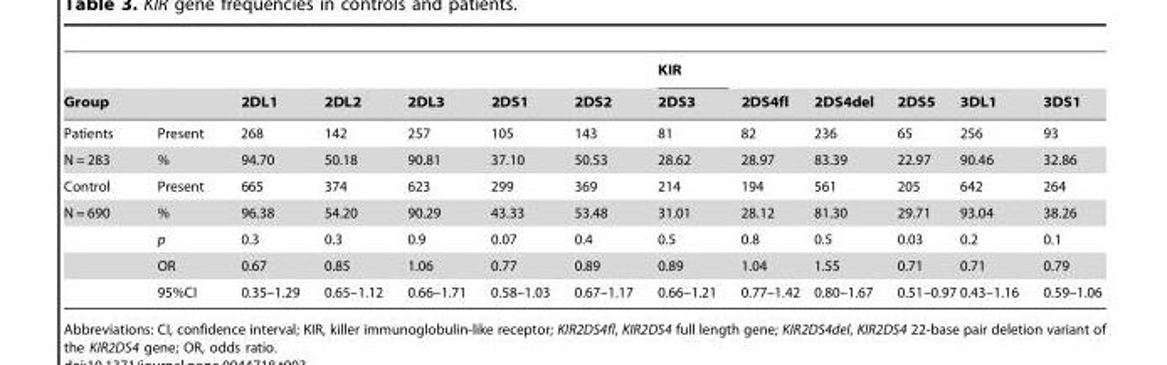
<table><thead><tr><td rowspan="2">Group</td><td rowspan="2"></td><td rowspan="2">2DL1</td><td rowspan="2">2DL2</td><td rowspan="2">2DL3</td><td rowspan="2">2DS1</td><td rowspan="2">2DS2</td><td rowspan="2">KIR 2DS3</td><td rowspan="2">2DS4fl</td><td rowspan="2">2DS4del</td><td rowspan="2">2DS5</td><td rowspan="2">3DL1</td><td rowspan="2">3DS1</td></tr><tr></tr></thead><tbody><tr><td>Patients</td><td>Present</td><td>268</td><td>142</td><td>257</td><td>105</td><td>143</td><td>81</td><td>82</td><td>236</td><td>65</td><td>256</td><td>93</td></tr><tr><td>N = 283</td><td>%</td><td>94.70</td><td>50.18</td><td>90.81</td><td>37.10</td><td>50.53</td><td>28.62</td><td>28.97</td><td>83.39</td><td>22.97</td><td>90.46</td><td>32.86</td></tr><tr><td>Control</td><td>Present</td><td>665</td><td>374</td><td>623</td><td>299</td><td>369</td><td>214</td><td>194</td><td>561</td><td>205</td><td>642</td><td>264</td></tr><tr><td rowspan="4">N = 690</td><td>%</td><td>96.38</td><td>54.20</td><td>90.29</td><td>43.33</td><td>53.48</td><td>31.01</td><td>28.12</td><td>81.30</td><td>29.71</td><td>93.04</td><td>38.26</td></tr><tr><td>p</td><td>0.3</td><td>0.3</td><td>0.9</td><td>0.07</td><td>0.4</td><td>0.5</td><td>0.8</td><td>0.5</td><td>0.03</td><td>0.2</td><td>0.1</td></tr><tr><td>OR</td><td>0.67</td><td>0.85</td><td>1.06</td><td>0.77</td><td>0.89</td><td>0.89</td><td>1.04</td><td>1.55</td><td>0.71</td><td>0.71</td><td>0.79</td></tr><tr><td>95%CI</td><td>0.35–1.29</td><td>0.65–1.12</td><td>0.66–1.71</td><td>0.58–1.03</td><td>0.67–1.17</td><td>0.66–1.21</td><td>0.77–1.42</td><td>0.80–1.67</td><td>0.51–0.97</td><td>0.43–1.16</td><td>0.59–1.06</td></tr></tbody></table>